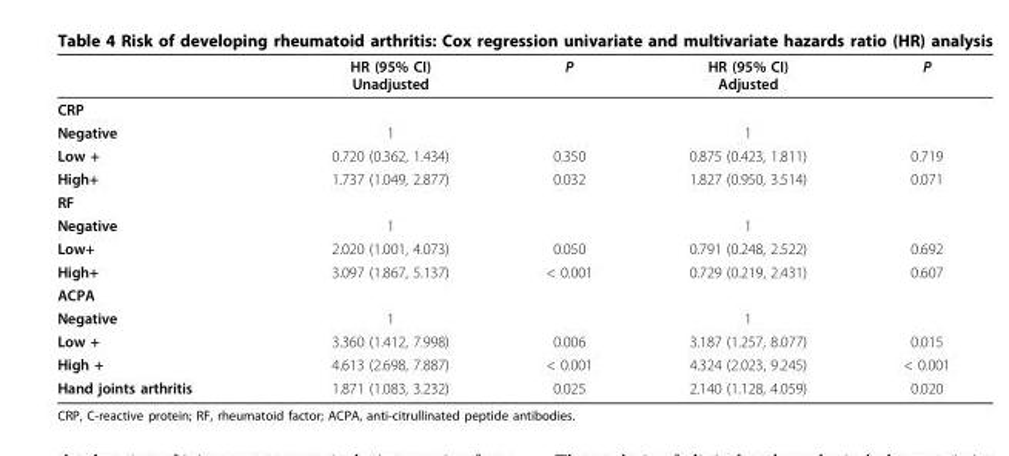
<table><thead><tr><td></td><td>HR (95% CI) Unadjusted</td><td>P</td><td>HR (95% CI) Adjusted</td><td>P</td></tr></thead><tbody><tr><td colspan="5">CRP</td></tr><tr><td>Negative</td><td>1</td><td></td><td>1</td><td></td></tr><tr><td>Low +</td><td>0.720 (0.362, 1.434)</td><td>0.350</td><td>0.875 (0.423, 1.811)</td><td>0.719</td></tr><tr><td>High+</td><td>1.737 (1.049, 2.877)</td><td>0.032</td><td>1.827 (0.950, 3.514)</td><td>0.071</td></tr><tr><td colspan="5">RF</td></tr><tr><td>Negative</td><td>1</td><td></td><td>1</td><td></td></tr><tr><td>Low+</td><td>2.020 (1.001, 4.073)</td><td>0.050</td><td>0.791 (0.248, 2.522)</td><td>0.692</td></tr><tr><td>High+</td><td>3.097 (1.867, 5.137)</td><td>&lt; 0.001</td><td>0.729 (0.219, 2.431)</td><td>0.607</td></tr><tr><td colspan="5">ACPA</td></tr><tr><td>Negative</td><td>1</td><td></td><td>1</td><td></td></tr><tr><td>Low +</td><td>3.360 (1.412, 7.998)</td><td>0.006</td><td>3.187 (1.257, 8.077)</td><td>0.015</td></tr><tr><td>High +</td><td>4.613 (2.698, 7.887)</td><td>&lt; 0.001</td><td>4.324 (2.023, 9.245)</td><td>&lt; 0.001</td></tr><tr><td>Hand joints arthritis</td><td>1.871 (1.083, 3.232)</td><td>0.025</td><td>2.140 (1.128, 4.059)</td><td>0.020</td></tr></tbody></table>